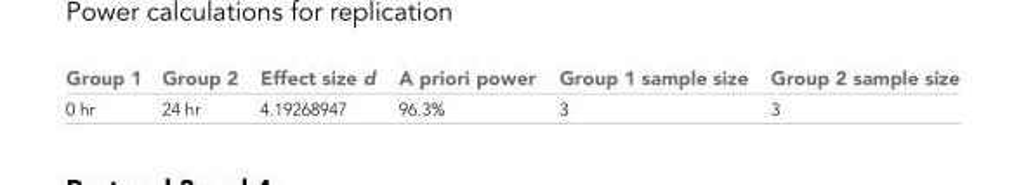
<table><thead><tr><td>Group 1</td><td>Group 2</td><td>Effect size d</td><td>A priori power</td><td>Group 1 sample size</td><td>Group 2 sample size</td></tr></thead><tbody><tr><td>0 hr</td><td>24 hr</td><td>4.19268947</td><td>96.3%</td><td>3</td><td>3</td></tr></tbody></table>